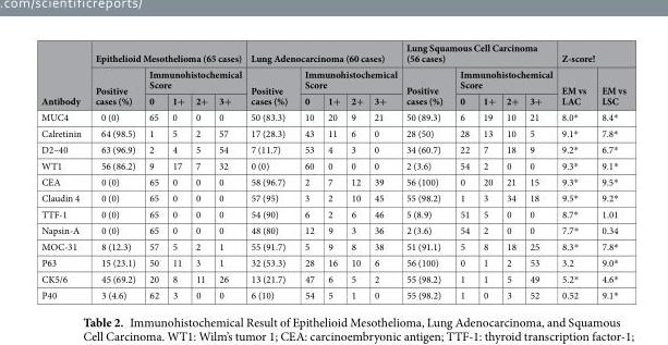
<table><thead><tr><td rowspan="3">Antibody</td><td colspan="5">Epithelioid Mesothelioma (65 cases)</td><td colspan="5">Lung Adenocarcinoma (60 cases)</td><td colspan="5">Lung Squamous Cell Carcinoma (56 cases)</td><td colspan="2">Z-score!</td></tr><tr><td rowspan="2">Positive cases (%)</td><td colspan="4">Immunohistochemical Score</td><td rowspan="2">Positive cases (%)</td><td colspan="4">Immunohistochemical Score</td><td rowspan="2">Positive cases (%)</td><td colspan="4">Immunohistochemical Score</td><td rowspan="2">EM vs LAC</td><td rowspan="2">EM vs LSC</td></tr><tr><td>0</td><td>1+</td><td>2+</td><td>3+</td><td>0</td><td>1+</td><td>2+</td><td>3+</td><td>0</td><td>1+</td><td>2+</td><td>3+</td></tr></thead><tbody><tr><td>MUC4</td><td>0 (0)</td><td>65</td><td>0</td><td>0</td><td>0</td><td>50 (83.3)</td><td>10</td><td>20</td><td>9</td><td>21</td><td>50 (89.3)</td><td>6</td><td>19</td><td>10</td><td>21</td><td>8.0*</td><td>8.4*</td></tr><tr><td>Calretinin</td><td>64 (98.5)</td><td>1</td><td>5</td><td>2</td><td>57</td><td>17 (28.3)</td><td>43</td><td>11</td><td>6</td><td>0</td><td>28 (50)</td><td>28</td><td>13</td><td>10</td><td>5</td><td>9.1*</td><td>7.8*</td></tr><tr><td>D2–40</td><td>63 (96.9)</td><td>2</td><td>4</td><td>5</td><td>54</td><td>7 (11.7)</td><td>53</td><td>4</td><td>3</td><td>0</td><td>34 (60.7)</td><td>22</td><td>7</td><td>18</td><td>9</td><td>9.2*</td><td>6.7*</td></tr><tr><td>WT1</td><td>56 (86.2)</td><td>9</td><td>17</td><td>7</td><td>32</td><td>0 (0)</td><td>60</td><td>0</td><td>0</td><td>0</td><td>2 (3.6)</td><td>54</td><td>2</td><td>0</td><td>0</td><td>9.3*</td><td>9.1*</td></tr><tr><td>CEA</td><td>0 (0)</td><td>65</td><td>0</td><td>0</td><td>0</td><td>58 (96.7)</td><td>2</td><td>7</td><td>12</td><td>39</td><td>56 (100)</td><td>0</td><td>20</td><td>21</td><td>15</td><td>9.3*</td><td>9.5*</td></tr><tr><td>Claudin 4</td><td>0 (0)</td><td>65</td><td>0</td><td>0</td><td>0</td><td>57 (95)</td><td>3</td><td>2</td><td>10</td><td>45</td><td>55 (98.2)</td><td>1</td><td>3</td><td>34</td><td>18</td><td>9.5*</td><td>9.2*</td></tr><tr><td>TTF-1</td><td>0 (0)</td><td>65</td><td>0</td><td>0</td><td>0</td><td>54 (90)</td><td>6</td><td>2</td><td>6</td><td>46</td><td>5 (8.9)</td><td>51</td><td>5</td><td>0</td><td>0</td><td>8.7*</td><td>1.01</td></tr><tr><td>Napsin-A</td><td>0 (0)</td><td>65</td><td>0</td><td>0</td><td>0</td><td>48 (80)</td><td>12</td><td>9</td><td>3</td><td>36</td><td>2 (3.6)</td><td>54</td><td>2</td><td>0</td><td>0</td><td>7.7*</td><td>0.34</td></tr><tr><td>MOC-31</td><td>8 (12.3)</td><td>57</td><td>5</td><td>2</td><td>1</td><td>55 (91.7)</td><td>5</td><td>9</td><td>8</td><td>38</td><td>51 (91.1)</td><td>5</td><td>8</td><td>18</td><td>25</td><td>8.3*</td><td>7.8*</td></tr><tr><td>P63</td><td>15 (23.1)</td><td>50</td><td>11</td><td>3</td><td>1</td><td>32 (53.3)</td><td>28</td><td>16</td><td>10</td><td>6</td><td>56 (100)</td><td>0</td><td>1</td><td>2</td><td>53</td><td>3.2</td><td>9.0*</td></tr><tr><td>CK5/6</td><td>45 (69.2)</td><td>20</td><td>8</td><td>11</td><td>26</td><td>13 (21.7)</td><td>47</td><td>6</td><td>5</td><td>2</td><td>55 (98.2)</td><td>1</td><td>1</td><td>5</td><td>49</td><td>5.2*</td><td>4.6*</td></tr><tr><td>P40</td><td>3 (4.6)</td><td>62</td><td>3</td><td>0</td><td>0</td><td>6 (10)</td><td>54</td><td>5</td><td>1</td><td>0</td><td>55 (98.2)</td><td>1</td><td>0</td><td>3</td><td>52</td><td>0.52</td><td>9.1*</td></tr></tbody></table>